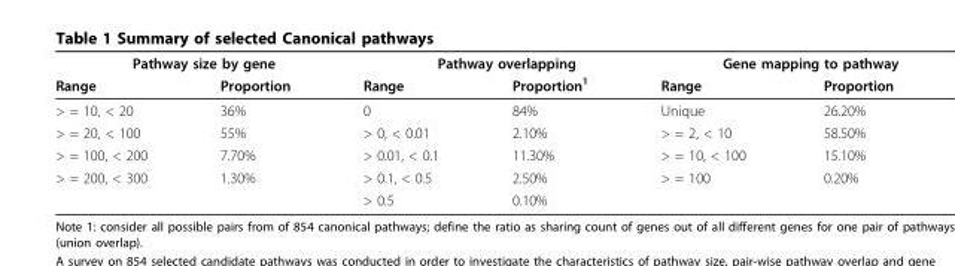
<table><thead><tr><td colspan="2">Pathway size by gene</td><td colspan="2">Pathway overlapping</td><td colspan="2">Gene mapping to pathway</td></tr><tr><td>Range</td><td>Proportion</td><td>Range</td><td>Proportion<sup>1</sup></td><td>Range</td><td>Proportion</td></tr></thead><tbody><tr><td>&gt; = 10, &lt; 20</td><td>36%</td><td>0</td><td>84%</td><td>Unique</td><td>26.20%</td></tr><tr><td>&gt; = 20, &lt; 100</td><td>55%</td><td>&gt; 0, &lt; 0.01</td><td>2.10%</td><td>&gt; = 2, &lt; 10</td><td>58.50%</td></tr><tr><td>&gt; = 100, &lt; 200</td><td>7.70%</td><td>&gt; 0.01, &lt; 0.1</td><td>11.30%</td><td>&gt; = 10, &lt; 100</td><td>15.10%</td></tr><tr><td rowspan="2">&gt; = 200, &lt; 300</td><td>1.30%</td><td>&gt; 0.1, &lt; 0.5</td><td>2.50%</td><td>&gt; = 100</td><td>0.20%</td></tr><tr><td></td><td>&gt; 0.5</td><td>0.10%</td><td></td><td></td></tr></tbody></table>